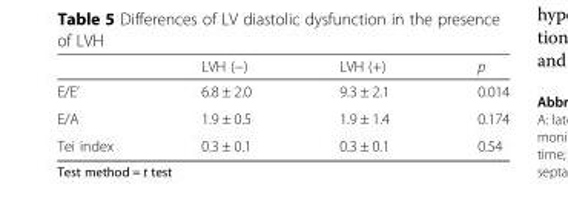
<table><thead><tr><td></td><td>LVH (−)</td><td>LVH (+)</td><td>p</td></tr></thead><tbody><tr><td>E/E’</td><td>6.8 ± 2.0</td><td>9.3 ± 2.1</td><td>0.014</td></tr><tr><td>E/A</td><td>1.9 ± 0.5</td><td>1.9 ± 1.4</td><td>0.174</td></tr><tr><td>Tei index</td><td>0.3 ± 0.1</td><td>0.3 ± 0.1</td><td>0.54</td></tr></tbody></table>